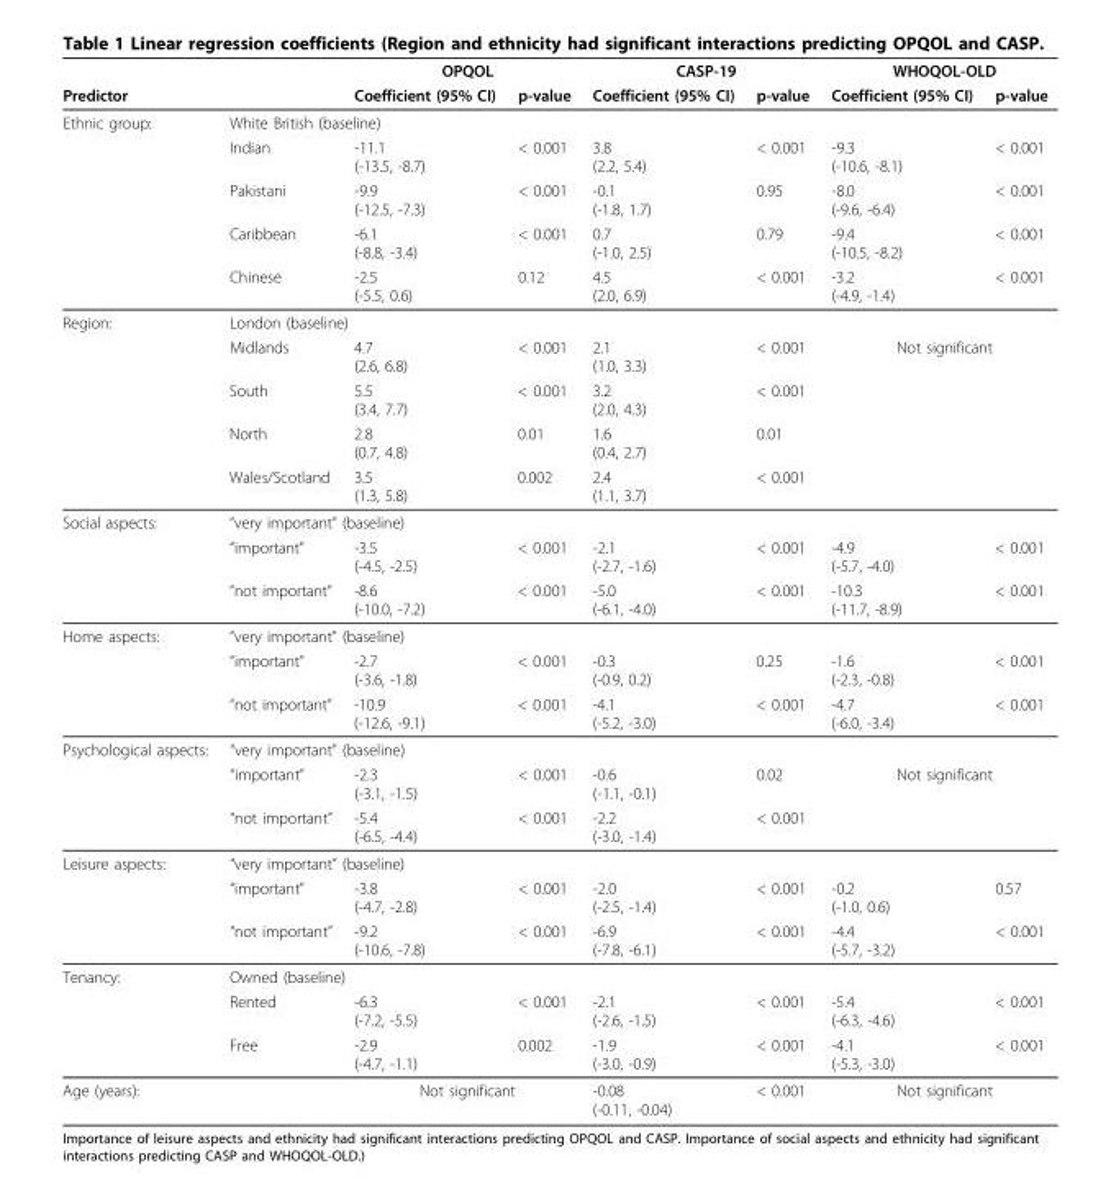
<table><thead><tr><td rowspan="2">Predictor</td><td rowspan="2"></td><td colspan="2">OPQOL</td><td colspan="2">CASP-19</td><td colspan="2">WHOQOL-OLD</td></tr><tr><td>Coefficient (95% CI)</td><td>p-value</td><td>Coefficient (95% CI)</td><td>p-value</td><td>Coefficient (95% CI)</td><td>p-value</td></tr></thead><tbody><tr><td rowspan="5">Ethnic group:</td><td colspan="7">White British (baseline)</td></tr><tr><td>Indian</td><td>-11.1 (-13.5, -8.7)</td><td>&lt; 0.001</td><td>3.8 (2.2, 5.4)</td><td>&lt; 0.001</td><td>-9.3 (-10.6, -8.1)</td><td>&lt; 0.001</td></tr><tr><td>Pakistani</td><td>-9.9 (-12.5, -7.3)</td><td>&lt; 0.001</td><td>-0.1 (-1.8, 1.7)</td><td>0.95</td><td>-8.0 (-9.6, -6.4)</td><td>&lt; 0.001</td></tr><tr><td>Caribbean</td><td>-6.1 (-8.8, -3.4)</td><td>&lt; 0.001</td><td>0.7 (-1.0, 2.5)</td><td>0.79</td><td>-9.4 (-10.5, -8.2)</td><td>&lt; 0.001</td></tr><tr><td>Chinese</td><td>-2.5 (-5.5, 0.6)</td><td>0.12</td><td>4.5 (2.0, 6.9)</td><td>&lt; 0.001</td><td>-3.2 (-4.9, -1.4)</td><td>&lt; 0.001</td></tr><tr><td rowspan="5">Region:</td><td colspan="7">London (baseline)</td></tr><tr><td>Midlands</td><td>4.7 (2.6, 6.8)</td><td>&lt; 0.001</td><td>2.1 (1.0, 3.3)</td><td>&lt; 0.001</td><td colspan="2">Not significant</td></tr><tr><td>South</td><td>5.5 (3.4, 7.7)</td><td>&lt; 0.001</td><td>3.2 (2.0, 4.3)</td><td>&lt; 0.001</td><td></td><td></td></tr><tr><td>North</td><td>2.8 (0.7, 4.8)</td><td>0.01</td><td>1.6 (0.4, 2.7)</td><td>0.01</td><td></td><td></td></tr><tr><td>Wales/Scotland</td><td>3.5 (1.3, 5.8)</td><td>0.002</td><td>2.4 (1.1, 3.7)</td><td>&lt; 0.001</td><td></td><td></td></tr><tr><td rowspan="3">Social aspects:</td><td colspan="7">“very important” (baseline)</td></tr><tr><td>“important”</td><td>-3.5 (-4.5, -2.5)</td><td>&lt; 0.001</td><td>-2.1 (-2.7, -1.6)</td><td>&lt; 0.001</td><td>-4.9 (-5.7, -4.0)</td><td>&lt; 0.001</td></tr><tr><td>“not important”</td><td>-8.6 (-10.0, -7.2)</td><td>&lt; 0.001</td><td>-5.0 (-6.1, -4.0)</td><td>&lt; 0.001</td><td>-10.3 (-11.7, -8.9)</td><td>&lt; 0.001</td></tr><tr><td rowspan="3">Home aspects:</td><td colspan="7">“very important” (baseline)</td></tr><tr><td>“important”</td><td>-2.7 (-3.6, -1.8)</td><td>&lt; 0.001</td><td>-0.3 (-0.9, 0.2)</td><td>0.25</td><td>-1.6 (-2.3, -0.8)</td><td>&lt; 0.001</td></tr><tr><td>“not important”</td><td>-10.9 (-12.6, -9.1)</td><td>&lt; 0.001</td><td>-4.1 (-5.2, -3.0)</td><td>&lt; 0.001</td><td>-4.7 (-6.0, -3.4)</td><td>&lt; 0.001</td></tr><tr><td rowspan="3">Psychological aspects:</td><td colspan="7">“very important” (baseline)</td></tr><tr><td>“important”</td><td>-2.3 (-3.1, -1.5)</td><td>&lt; 0.001</td><td>-0.6 (-1.1, -0.1)</td><td>0.02</td><td colspan="2">Not significant</td></tr><tr><td>“not important”</td><td>-5.4 (-6.5, -4.4)</td><td>&lt; 0.001</td><td>-2.2 (-3.0, -1.4)</td><td>&lt; 0.001</td><td></td><td></td></tr><tr><td rowspan="3">Leisure aspects:</td><td colspan="7">“very important” (baseline)</td></tr><tr><td>“important”</td><td>-3.8 (-4.7, -2.8)</td><td>&lt; 0.001</td><td>-2.0 (-2.5, -1.4)</td><td>&lt; 0.001</td><td>-0.2 (-1.0, 0.6)</td><td>0.57</td></tr><tr><td>“not important”</td><td>-9.2 (-10.6, -7.8)</td><td>&lt; 0.001</td><td>-6.9 (-7.8, -6.1)</td><td>&lt; 0.001</td><td>-4.4 (-5.7, -3.2)</td><td>&lt; 0.001</td></tr><tr><td rowspan="3">Tenancy:</td><td colspan="7">Owned (baseline)</td></tr><tr><td>Rented</td><td>-6.3 (-7.2, -5.5)</td><td>&lt; 0.001</td><td>-2.1 (-2.6, -1.5)</td><td>&lt; 0.001</td><td>-5.4 (-6.3, -4.6)</td><td>&lt; 0.001</td></tr><tr><td>Free</td><td>-2.9 (-4.7, -1.1)</td><td>0.002</td><td>-1.9 (-3.0, -0.9)</td><td>&lt; 0.001</td><td>-4.1 (-5.3, -3.0)</td><td>&lt; 0.001</td></tr><tr><td>Age (years):</td><td></td><td colspan="2">Not significant</td><td>-0.08 (-0.11, -0.04)</td><td>&lt; 0.001</td><td colspan="2">Not significant</td></tr></tbody></table>